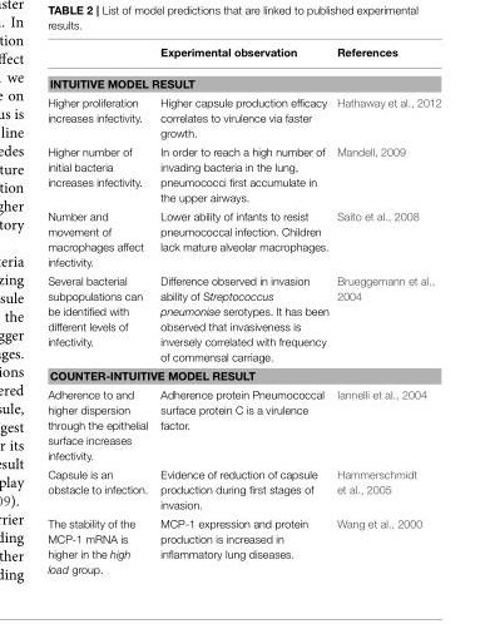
<table><thead><tr><td></td><td>Experimental observation</td><td>References</td></tr></thead><tbody><tr><td colspan="3">INTUITIVE MODEL RESULT</td></tr><tr><td>Higher proliferation increases infectivity.</td><td>Higher capsule production efficacy correlates to virulence via faster growth.</td><td>Hathaway et al., 2012</td></tr><tr><td>Higher number of initial bacteria increases infectivity.</td><td>In order to reach a high number of invading bacteria in the lung, pneumococci first accumulate in the upper airways.</td><td>Mandell, 2009</td></tr><tr><td>Number and movement of macrophages affect infectivity.</td><td>Lower ability of infants to resist pneumococcal infection. Children lack mature alveolar macrophages.</td><td>Saito et al., 2008</td></tr><tr><td>Several bacterial subpopulations can be identified with different levels of infectivity.</td><td>Difference observed in invasion ability of Streptococcus pneumoniae serotypes. It has been observed that invasiveness is inversely correlated with frequency of commensal carriage.</td><td>Brueggemann et al., 2004</td></tr><tr><td colspan="3">COUNTER-INTUITIVE MODEL RESULT</td></tr><tr><td>Adherence to and higher dispersion through the epithelial surface increases infectivity.</td><td>Adherence protein Pneumococcal surface protein C is a virulence factor.</td><td>Iannelli et al., 2004</td></tr><tr><td>Capsule is an obstacle to infection.</td><td>Evidence of reduction of capsule production during first stages of invasion.</td><td>Hammerschmidt et al., 2005</td></tr><tr><td>The stability of the MCP-1 mRNA is higher in the high load group.</td><td>MCP-1 expression and protein production is increased in inflammatory lung diseases.</td><td>Wang et al., 2000</td></tr></tbody></table>